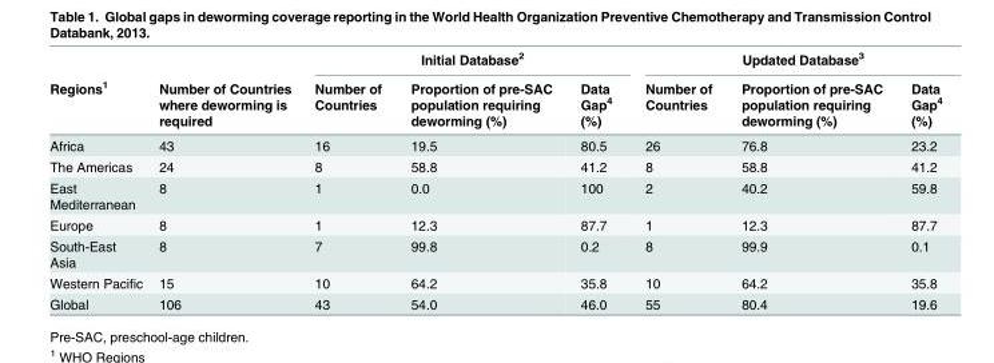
<table><thead><tr><td rowspan="2">Regions<sup>1</sup></td><td rowspan="2">Number of Countries where deworming is required</td><td colspan="3">Initial Database<sup>2</sup></td><td colspan="3">Updated Database<sup>3</sup></td></tr><tr><td>Number of Countries</td><td>Proportion of pre-SAC population requiring deworming (%)</td><td>Data Gap<sup>4</sup> (%)</td><td>Number of Countries</td><td>Proportion of pre-SAC population requiring deworming (%)</td><td>Data Gap<sup>4</sup> (%)</td></tr></thead><tbody><tr><td>Africa</td><td>43</td><td>16</td><td>19.5</td><td>80.5</td><td>26</td><td>76.8</td><td>23.2</td></tr><tr><td>The Americas</td><td>24</td><td>8</td><td>58.8</td><td>41.2</td><td>8</td><td>58.8</td><td>41.2</td></tr><tr><td>East Mediterranean</td><td>8</td><td>1</td><td>0.0</td><td>100</td><td>2</td><td>40.2</td><td>59.8</td></tr><tr><td>Europe</td><td>8</td><td>1</td><td>12.3</td><td>87.7</td><td>1</td><td>12.3</td><td>87.7</td></tr><tr><td>South-East Asia</td><td>8</td><td>7</td><td>99.8</td><td>0.2</td><td>8</td><td>99.9</td><td>0.1</td></tr><tr><td>Western Pacific</td><td>15</td><td>10</td><td>64.2</td><td>35.8</td><td>10</td><td>64.2</td><td>35.8</td></tr><tr><td>Global</td><td>106</td><td>43</td><td>54.0</td><td>46.0</td><td>55</td><td>80.4</td><td>19.6</td></tr></tbody></table>